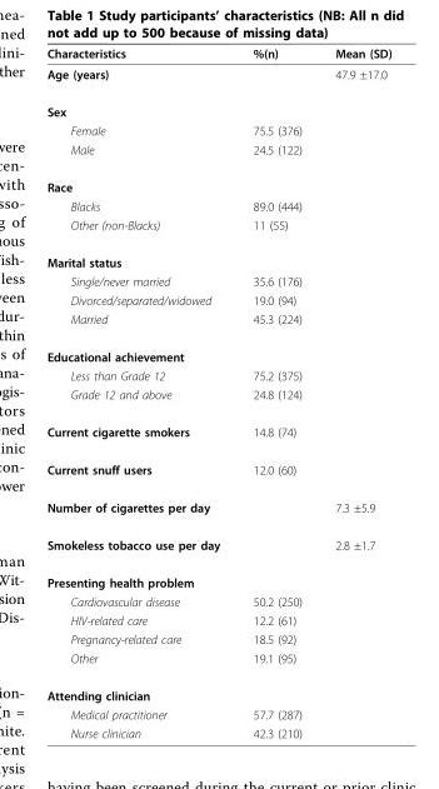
<table><thead><tr><td>Characteristics</td><td>%(n)</td><td>Mean (SD)</td></tr></thead><tbody><tr><td>Age (years)</td><td></td><td>47.9 ±17.0</td></tr><tr><td colspan="3">Sex</td></tr><tr><td>Female</td><td>75.5 (376)</td><td></td></tr><tr><td>Male</td><td>24.5 (122)</td><td></td></tr><tr><td colspan="3">Race</td></tr><tr><td>Blacks</td><td>89.0 (444)</td><td></td></tr><tr><td>Other (non-Blacks)</td><td>11 (55)</td><td></td></tr><tr><td colspan="3">Marital status</td></tr><tr><td>Single/never married</td><td>35.6 (176)</td><td></td></tr><tr><td>Divorced/separated/widowed</td><td>19.0 (94)</td><td></td></tr><tr><td>Married</td><td>45.3 (224)</td><td></td></tr><tr><td colspan="3">Educational achievement</td></tr><tr><td>Less than Grade 12</td><td>75.2 (375)</td><td></td></tr><tr><td>Grade 12 and above</td><td>24.8 (124)</td><td></td></tr><tr><td>Current cigarette smokers</td><td>14.8 (74)</td><td></td></tr><tr><td>Current snuff users</td><td>12.0 (60)</td><td></td></tr><tr><td>Number of cigarettes per day</td><td></td><td>7.3 ±5.9</td></tr><tr><td>Smokeless tobacco use per day</td><td></td><td>2.8 ±1.7</td></tr><tr><td colspan="3">Presenting health problem</td></tr><tr><td>Cardiovascular disease</td><td>50.2 (250)</td><td></td></tr><tr><td>HIV-related care</td><td>12.2 (61)</td><td></td></tr><tr><td>Pregnancy-related care</td><td>18.5 (92)</td><td></td></tr><tr><td>Other</td><td>19.1 (95)</td><td></td></tr><tr><td colspan="3">Attending clinician</td></tr><tr><td>Medical practitioner</td><td>57.7 (287)</td><td></td></tr><tr><td>Nurse clinician</td><td>42.3 (210)</td><td></td></tr></tbody></table>